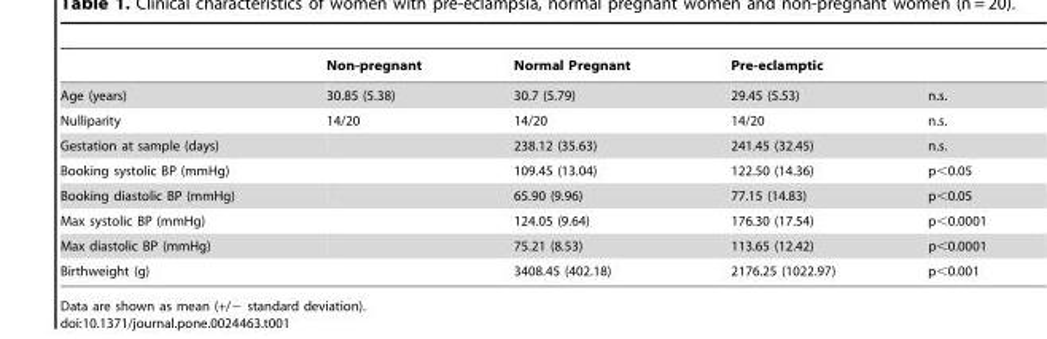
<table><thead><tr><td></td><td>Non-pregnant</td><td>Normal Pregnant</td><td>Pre-eclamptic</td><td></td></tr></thead><tbody><tr><td>Age (years)</td><td>30.85 (5.38)</td><td>30.7 (5.79)</td><td>29.45 (5.53)</td><td>n.s.</td></tr><tr><td>Nulliparity</td><td>14/20</td><td>14/20</td><td>14/20</td><td>n.s.</td></tr><tr><td>Gestation at sample (days)</td><td></td><td>238.12 (35.63)</td><td>241.45 (32.45)</td><td>n.s.</td></tr><tr><td>Booking systolic BP (mmHg)</td><td></td><td>109.45 (13.04)</td><td>122.50 (14.36)</td><td>p&lt;0.05</td></tr><tr><td>Booking diastolic BP (mmHg)</td><td></td><td>65.90 (9.96)</td><td>77.15 (14.83)</td><td>p&lt;0.05</td></tr><tr><td>Max systolic BP (mmHg)</td><td></td><td>124.05 (9.64)</td><td>176.30 (17.54)</td><td>p&lt;0.0001</td></tr><tr><td>Max diastolic BP (mmHg)</td><td></td><td>75.21 (8.53)</td><td>113.65 (12.42)</td><td>p&lt;0.0001</td></tr><tr><td>Birthweight (g)</td><td></td><td>3408.45 (402.18)</td><td>2176.25 (1022.97)</td><td>p&lt;0.001</td></tr></tbody></table>